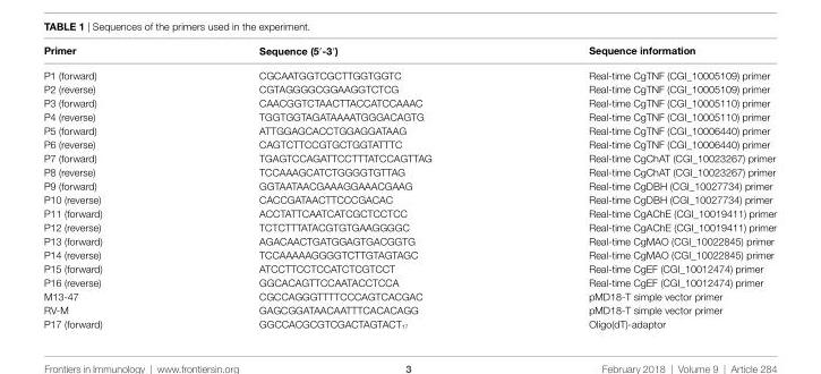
<table><thead><tr><td>Primer</td><td>sequence (5′-3′)</td><td>sequence information</td></tr></thead><tbody><tr><td>P1 (forward)</td><td>CGCAATGGTCGCTTGGTGGTC</td><td>Real-time CgTNF (CGI_10005109) primer</td></tr><tr><td>P2 (reverse)</td><td>CGTAGGGGCGGAAGGTCTCG</td><td>Real-time CgTNF (CGI_10005109) primer</td></tr><tr><td>P3 (forward)</td><td>CAACGGTCTAACTTACCATCCAAAC</td><td>Real-time CgTNF (CGI_10005110) primer</td></tr><tr><td>P4 (reverse)</td><td>TGGTGGTAGATAAAATGGGACAGTG</td><td>Real-time CgTNF (CGI_10005110) primer</td></tr><tr><td>P5 (forward)</td><td>ATTGGAGCACCTGGAGGATAAG</td><td>Real-time CgTNF (CGI_10006440) primer</td></tr><tr><td>P6 (reverse)</td><td>CAGTCTTCCGTGCTGGTATTTC</td><td>Real-time CgTNF (CGI_10006440) primer</td></tr><tr><td>P7 (forward)</td><td>TGAGTCCAGATTCCTTTATCCAGTTAG</td><td>Real-time CgChAT (CGI_10023267) primer</td></tr><tr><td>P8 (reverse)</td><td>TCCAAAGCATCTGGGGTGTTAG</td><td>Real-time CgChAT (CGI_10023267) primer</td></tr><tr><td>P9 (forward)</td><td>GGTAATAACGAAAGGAAACGAAG</td><td>Real-time CgDBH (CGI_10027734) primer</td></tr><tr><td>P10 (reverse)</td><td>CACCGATAACTTCCCGACAC</td><td>Real-time CgDBH (CGI_10027734) primer</td></tr><tr><td>P11 (forward)</td><td>ACCTATTCAATCATCGCTCCTCC</td><td>Real-time CgAChE (CGI_10019411) primer</td></tr><tr><td>P12 (reverse)</td><td>TCTCTTTATACGTGTGAAGGGGC</td><td>Real-time CgAChE (CGI_10019411) primer</td></tr><tr><td>P13 (forward)</td><td>AGACAACTGATGGAGTGACGGTG</td><td>Real-time CgMAO (CGI_10022845) primer</td></tr><tr><td>P14 (reverse)</td><td>TCCAAAAAGGGGTCTTGTAGTAGC</td><td>Real-time CgMAO (CGI_10022845) primer</td></tr><tr><td>P15 (forward)</td><td>ATCCTTCCTCCATCTCGTCCT</td><td>Real-time CgEF (CGI_10012474) primer</td></tr><tr><td>P16 (reverse)</td><td>GGCACAGTTCCAATACCTCCA</td><td>Real-time CgEF (CGI_10012474) primer</td></tr><tr><td>M13-47</td><td>CGCCAGGGTTTTCCCAGTCACGAC</td><td>pMD18-T simple vector primer</td></tr><tr><td>RV-M</td><td>GAGCGGATAACAATTTCACACAGG</td><td>pMD18-T simple vector primer</td></tr><tr><td>P17 (forward)</td><td>GGCCACGCGTCGACTAGTACT<sub>17</sub></td><td>Oligo(dT)-adaptor</td></tr></tbody></table>